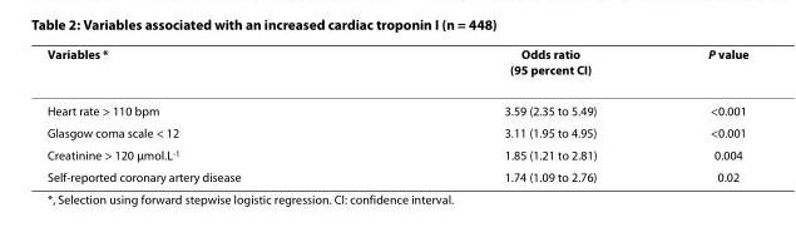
<table><thead><tr><td>Variables *</td><td>Odds ratio (95 percent CI)</td><td>P value</td></tr></thead><tbody><tr><td>Heart rate &gt; 110 bpm</td><td>3.59 (2.35 to 5.49)</td><td>&lt;0.001</td></tr><tr><td>Glasgow coma scale &lt; 12</td><td>3.11 (1.95 to 4.95)</td><td>&lt;0.001</td></tr><tr><td>Creatinine &gt; 120 μmol.L<sup>-1</sup></td><td>1.85 (1.21 to 2.81)</td><td>0.004</td></tr><tr><td>Self-reported coronary artery disease</td><td>1.74 (1.09 to 2.76)</td><td>0.02</td></tr></tbody></table>